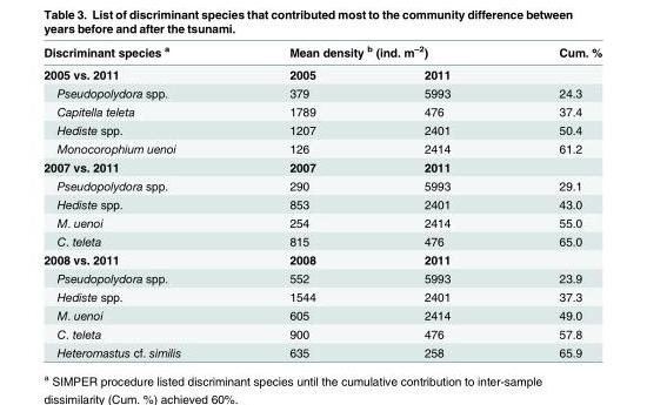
<table><thead><tr><td rowspan="2">Discriminant species <sup>a</sup> 2005 vs. 2011</td><td colspan="2">Mean density <sup>b</sup> (ind. m<sup>–2</sup>)</td><td rowspan="2">Cum. %</td></tr><tr><td>2005</td><td>2011</td></tr></thead><tbody><tr><td>Pseudopolydora spp.</td><td>379</td><td>5993</td><td>24.3</td></tr><tr><td>Capitella teleta</td><td>1789</td><td>476</td><td>37.4</td></tr><tr><td>Hediste spp.</td><td>1207</td><td>2401</td><td>50.4</td></tr><tr><td>Monocorophium uenoi</td><td>126</td><td>2414</td><td>61.2</td></tr><tr><td>2007 vs. 2011</td><td>2007</td><td>2011</td><td></td></tr><tr><td>Pseudopolydora spp.</td><td>290</td><td>5993</td><td>29.1</td></tr><tr><td>Hediste spp.</td><td>853</td><td>2401</td><td>43.0</td></tr><tr><td>M. uenoi</td><td>254</td><td>2414</td><td>55.0</td></tr><tr><td>C. teleta</td><td>815</td><td>476</td><td>65.0</td></tr><tr><td>2008 vs. 2011</td><td>2008</td><td>2011</td><td></td></tr><tr><td>Pseudopolydora spp.</td><td>552</td><td>5993</td><td>23.9</td></tr><tr><td>Hediste spp.</td><td>1544</td><td>2401</td><td>37.3</td></tr><tr><td>M. uenoi</td><td>605</td><td>2414</td><td>49.0</td></tr><tr><td>C. teleta</td><td>900</td><td>476</td><td>57.8</td></tr><tr><td>Heteromastus cf. similis</td><td>635</td><td>258</td><td>65.9</td></tr></tbody></table>